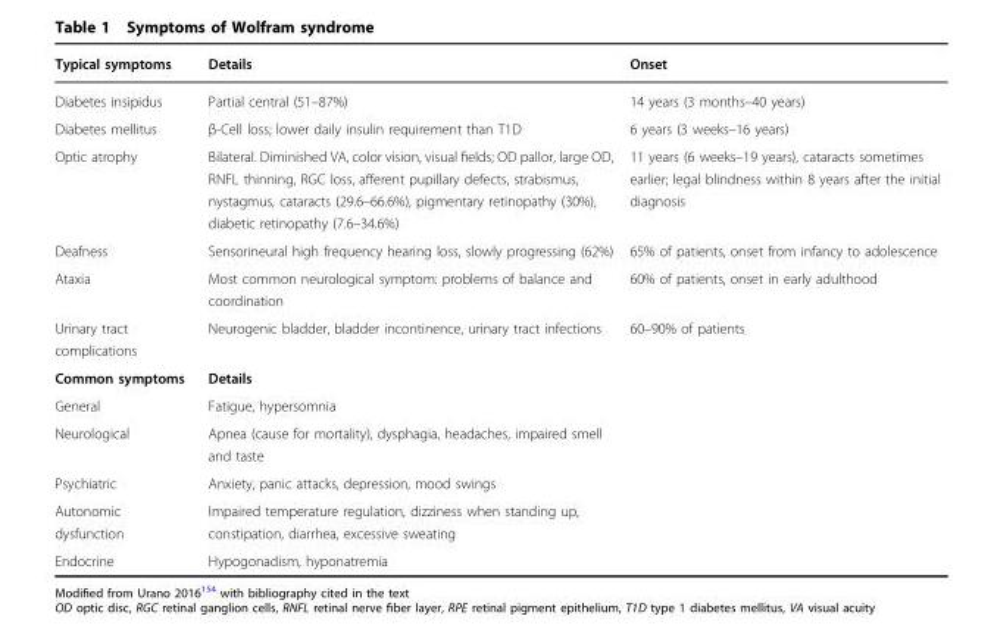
<table><thead><tr><td>Typical symptoms</td><td>Details</td><td>Onset</td></tr></thead><tbody><tr><td>Diabetes insipidus</td><td>Partial central (51–87%)</td><td>14 years (3 months–40 years)</td></tr><tr><td>Diabetes mellitus</td><td>β-Cell loss; lower daily insulin requirement than T1D</td><td>6 years (3 weeks–16 years)</td></tr><tr><td>Optic atrophy</td><td>Bilateral. Diminished VA, color vision, visual fields; OD pallor, large OD, RNFL thinning, RGC loss, afferent pupillary defects, strabismus, nystagmus, cataracts (29.6–66.6%), pigmentary retinopathy (30%), diabetic retinopathy (7.6–34.6%)</td><td>11 years (6 weeks–19 years), cataracts sometimes earlier; legal blindness within 8 years after the initial diagnosis</td></tr><tr><td>Deafness</td><td>Sensorineural high frequency hearing loss, slowly progressing (62%)</td><td>65% of patients, onset from infancy to adolescence</td></tr><tr><td>Ataxia</td><td>Most common neurological symptom: problems of balance and coordination</td><td>60% of patients, onset in early adulthood</td></tr><tr><td>Urinary tract complications</td><td>Neurogenic bladder, bladder incontinence, urinary tract infections</td><td>60–90% of patients</td></tr><tr><td>Common symptoms</td><td>Details</td><td></td></tr><tr><td>General</td><td>Fatigue, hypersomnia</td><td></td></tr><tr><td>Neurological</td><td>Apnea (cause for mortality), dysphagia, headaches, impaired smell and taste</td><td></td></tr><tr><td>Psychiatric</td><td>Anxiety, panic attacks, depression, mood swings</td><td></td></tr><tr><td>Autonomic dysfunction</td><td>Impaired temperature regulation, dizziness when standing up, constipation, diarrhea, excessive sweating</td><td></td></tr><tr><td>Endocrine</td><td>Hypogonadism, hyponatremia</td><td></td></tr></tbody></table>